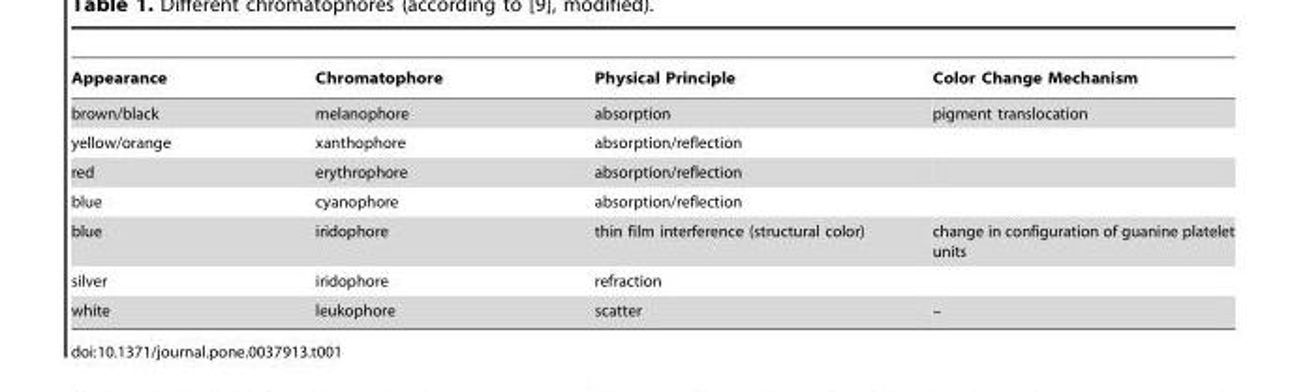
<table><thead><tr><td>Appearance</td><td>Chromatophore</td><td>Physical Principle</td><td>Color Change Mechanism</td></tr></thead><tbody><tr><td>brown/black</td><td>melanophore</td><td>absorption</td><td>pigment translocation</td></tr><tr><td>yellow/orange</td><td>xanthophore</td><td>absorption/reflection</td><td></td></tr><tr><td>red</td><td>erythrophore</td><td>absorption/reflection</td><td></td></tr><tr><td>blue</td><td>cyanophore</td><td>absorption/reflection</td><td></td></tr><tr><td>blue</td><td>iridophore</td><td>thin film interference (structural color)</td><td>change in configuration of guanine platelet units</td></tr><tr><td>silver</td><td>iridophore</td><td>refraction</td><td></td></tr><tr><td>white</td><td>leukophore</td><td>scatter</td><td>–</td></tr></tbody></table>